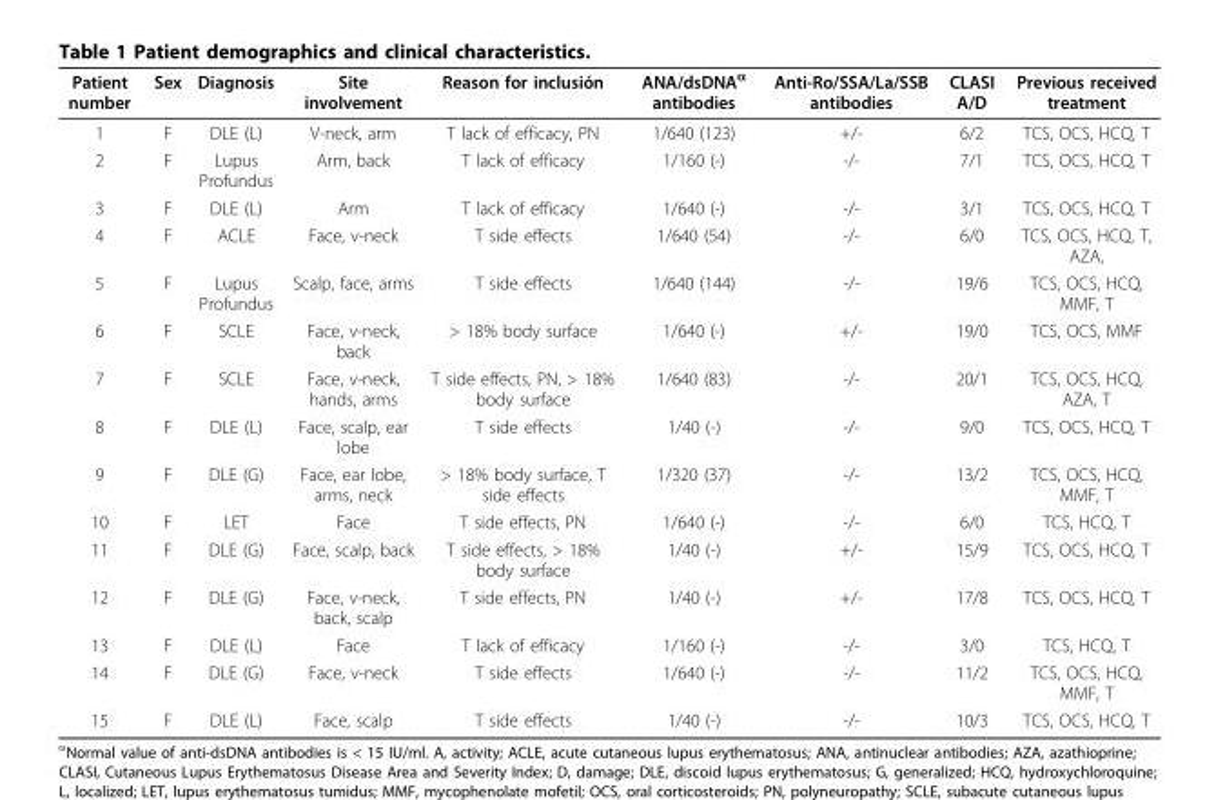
<table><thead><tr><td>Patient number</td><td>Sex</td><td>Diagnosis</td><td>Site involvement</td><td>Reason for inclusión</td><td>ANA/dsDNA<sup>α</sup> antibodies</td><td>Anti-Ro/SSA/La/SSB antibodies</td><td>CLASI A/D</td><td>Previous received treatment</td></tr></thead><tbody><tr><td>1</td><td>F</td><td>DLE (L)</td><td>V-neck, arm</td><td>T lack of efficacy, PN</td><td>1/640 (123)</td><td>+/-</td><td>6/2</td><td>TCS, OCS, HCQ, T</td></tr><tr><td>2</td><td>F</td><td>Lupus Profundus</td><td>Arm, back</td><td>T lack of efficacy</td><td>1/160 (-)</td><td>-/-</td><td>7/1</td><td>TCS, OCS, HCQ, T</td></tr><tr><td>3</td><td>F</td><td>DLE (L)</td><td>Arm</td><td>T lack of efficacy</td><td>1/640 (-)</td><td>-/-</td><td>3/1</td><td>TCS, OCS, HCQ, T</td></tr><tr><td>4</td><td>F</td><td>ACLE</td><td>Face, v-neck</td><td>T side effects</td><td>1/640 (54)</td><td>-/-</td><td>6/0</td><td>TCS, OCS, HCQ, T, AZA,</td></tr><tr><td>5</td><td>F</td><td>Lupus Profundus</td><td>Scalp, face, arms</td><td>T side effects</td><td>1/640 (144)</td><td>-/-</td><td>19/6</td><td>TCS, OCS, HCQ, MMF, T</td></tr><tr><td>6</td><td>F</td><td>SCLE</td><td>Face, v-neck, back</td><td>&gt; 18% body surface</td><td>1/640 (-)</td><td>+/-</td><td>19/0</td><td>TCS, OCS, MMF</td></tr><tr><td>7</td><td>F</td><td>SCLE</td><td>Face, v-neck, hands, arms</td><td>T side effects, PN, &gt; 18% body surface</td><td>1/640 (83)</td><td>-/-</td><td>20/1</td><td>TCS, OCS, HCQ, AZA, T</td></tr><tr><td>8</td><td>F</td><td>DLE (L)</td><td>Face, scalp, ear lobe</td><td>T side effects</td><td>1/40 (-)</td><td>-/-</td><td>9/0</td><td>TCS, OCS, HCQ, T</td></tr><tr><td>9</td><td>F</td><td>DLE (G)</td><td>Face, ear lobe, arms, neck</td><td>&gt; 18% body surface, T side effects</td><td>1/320 (37)</td><td>-/-</td><td>13/2</td><td>TCS, OCS, HCQ, MMF, T</td></tr><tr><td>10</td><td>F</td><td>LET</td><td>Face</td><td>T side effects, PN</td><td>1/640 (-)</td><td>-/-</td><td>6/0</td><td>TCS, HCQ, T</td></tr><tr><td>11</td><td>F</td><td>DLE (G)</td><td>Face, scalp, back</td><td>T side effects, &gt; 18% body surface</td><td>1/40 (-)</td><td>+/-</td><td>15/9</td><td>TCS, OCS, HCQ, T</td></tr><tr><td>12</td><td>F</td><td>DLE (G)</td><td>Face, v-neck, back, scalp</td><td>T side effects, PN</td><td>1/40 (-)</td><td>+/-</td><td>17/8</td><td>TCS, OCS, HCQ, T</td></tr><tr><td>13</td><td>F</td><td>DLE (L)</td><td>Face</td><td>T lack of efficacy</td><td>1/160 (-)</td><td>-/-</td><td>3/0</td><td>TCS, HCQ, T</td></tr><tr><td>14</td><td>F</td><td>DLE (G)</td><td>Face, v-neck</td><td>T side effects</td><td>1/640 (-)</td><td>-/-</td><td>11/2</td><td>TCS, OCS, HCQ, MMF, T</td></tr><tr><td>15</td><td>F</td><td>DLE (L)</td><td>Face, scalp</td><td>T side effects</td><td>1/40 (-)</td><td>-/-</td><td>10/3</td><td>TCS, OCS, HCQ, T</td></tr></tbody></table>